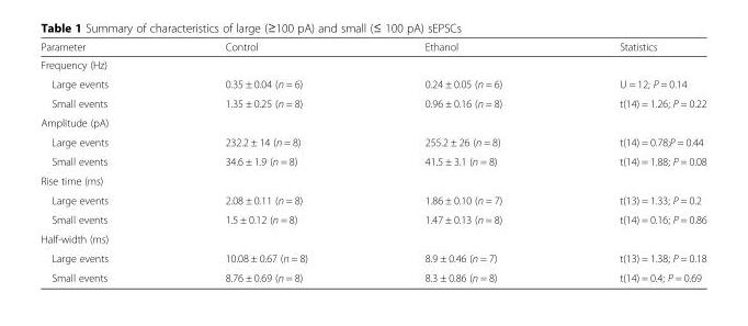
<table><thead><tr><td>Parameter</td><td>Control</td><td>Ethanol</td><td>Statistics</td></tr></thead><tbody><tr><td colspan="4">Frequency (Hz)</td></tr><tr><td>Large events</td><td>0.35 ± 0.04 (n = 6)</td><td>0.24 ± 0.05 (n = 6)</td><td>U = 12; P = 0.14</td></tr><tr><td>Small events</td><td>1.35 ± 0.25 (n = 8)</td><td>0.96 ± 0.16 (n = 8)</td><td>t(14) = 1.26; P = 0.22</td></tr><tr><td colspan="4">Amplitude (pA)</td></tr><tr><td>Large events</td><td>232.2 ± 14 (n = 8)</td><td>255.2 ± 26 (n = 8)</td><td>t(14) = 0.78;P = 0.44</td></tr><tr><td>Small events</td><td>34.6 ± 1.9 (n = 8)</td><td>41.5 ± 3.1 (n = 8)</td><td>t(14) = 1.88; P = 0.08</td></tr><tr><td colspan="4">Rise time (ms)</td></tr><tr><td>Large events</td><td>2.08 ± 0.11 (n = 8)</td><td>1.86 ± 0.10 (n = 7)</td><td>t(13) = 1.33; P = 0.2</td></tr><tr><td>Small events</td><td>1.5 ± 0.12 (n = 8)</td><td>1.47 ± 0.13 (n = 8)</td><td>t(14) = 0.16; P = 0.86</td></tr><tr><td colspan="4">Half-width (ms)</td></tr><tr><td>Large events</td><td>10.08 ± 0.67 (n = 8)</td><td>8.9 ± 0.46 (n = 7)</td><td>t(13) = 1.38; P = 0.18</td></tr><tr><td>Small events</td><td>8.76 ± 0.69 (n = 8)</td><td>8.3 ± 0.86 (n = 8)</td><td>t(14) = 0.4; P = 0.69</td></tr></tbody></table>